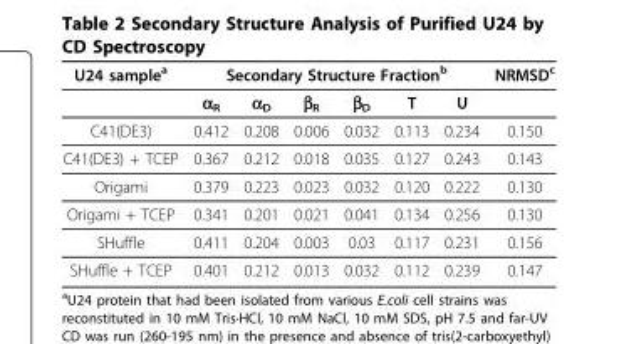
<table><thead><tr><td rowspan="2">U24 sample<sup>a</sup></td><td colspan="6">Secondary Structure Fraction<sup>b</sup></td><td rowspan="2">NRMSD<sup>c</sup></td></tr><tr><td>α<sub>R</sub></td><td>α<sub>D</sub></td><td>β<sub>R</sub></td><td>β<sub>D</sub></td><td>T</td><td>U</td></tr></thead><tbody><tr><td>C41(DE3)</td><td>0.412</td><td>0.208</td><td>0.006</td><td>0.032</td><td>0.113</td><td>0.234</td><td>0.150</td></tr><tr><td>C41(DE3) + TCEP</td><td>0.367</td><td>0.212</td><td>0.018</td><td>0.035</td><td>0.127</td><td>0.243</td><td>0.143</td></tr><tr><td>Origami</td><td>0.379</td><td>0.223</td><td>0.023</td><td>0.032</td><td>0.120</td><td>0.222</td><td>0.130</td></tr><tr><td>Origami + TCEP</td><td>0.341</td><td>0.201</td><td>0.021</td><td>0.041</td><td>0.134</td><td>0.256</td><td>0.130</td></tr><tr><td>SHuffle</td><td>0.411</td><td>0.204</td><td>0.003</td><td>0.03</td><td>0.117</td><td>0.231</td><td>0.156</td></tr><tr><td>SHuffle + TCEP</td><td>0.401</td><td>0.212</td><td>0.013</td><td>0.032</td><td>0.112</td><td>0.239</td><td>0.147</td></tr></tbody></table>